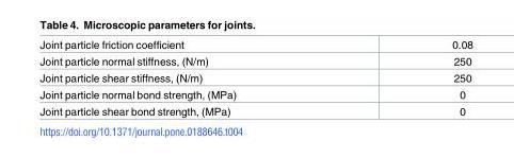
<table><tbody><tr><td>Joint particle friction coefficient</td><td>0.08</td></tr><tr><td>Joint particle normal stiffness, (N/m)</td><td>250</td></tr><tr><td>Joint particle shear stiffness, (N/m)</td><td>250</td></tr><tr><td>Joint particle normal bond strength, (MPa)</td><td>0</td></tr><tr><td>Joint particle shear bond strength, (MPa)</td><td>0</td></tr></tbody></table>